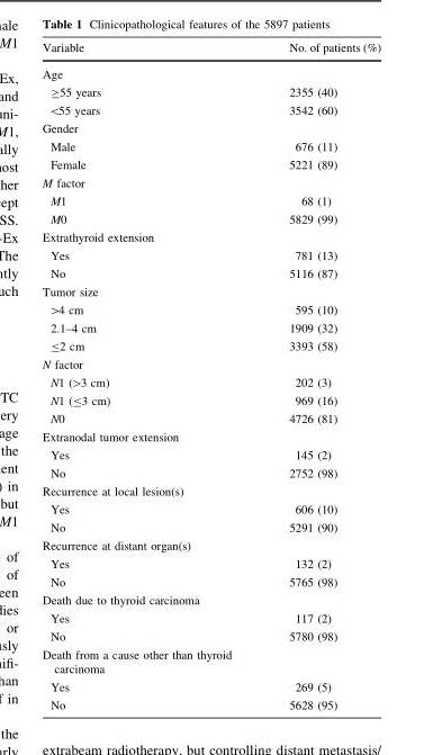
<table><thead><tr><td>Variable</td><td>No. of patients (%)</td></tr></thead><tbody><tr><td colspan="2">Age</td></tr><tr><td>≥55 years</td><td>2355 (40)</td></tr><tr><td>&lt;55 years</td><td>3542 (60)</td></tr><tr><td colspan="2">Gender</td></tr><tr><td>Male</td><td>676 (11)</td></tr><tr><td>Female</td><td>5221 (89)</td></tr><tr><td colspan="2">M factor</td></tr><tr><td>M1</td><td>68 (1)</td></tr><tr><td>M0</td><td>5829 (99)</td></tr><tr><td colspan="2">Extrathyroid extension</td></tr><tr><td>Yes</td><td>781 (13)</td></tr><tr><td>No</td><td>5116 (87)</td></tr><tr><td colspan="2">Tumor size</td></tr><tr><td>&gt;4 cm</td><td>595 (10)</td></tr><tr><td>2.1–4 cm</td><td>1909 (32)</td></tr><tr><td>≤2 cm</td><td>3393 (58)</td></tr><tr><td colspan="2">N factor</td></tr><tr><td>N1 (&gt;3 cm)</td><td>202 (3)</td></tr><tr><td>N1 (≤3 cm)</td><td>969 (16)</td></tr><tr><td>N0</td><td>4726 (81)</td></tr><tr><td colspan="2">Extranodal tumor extension</td></tr><tr><td>Yes</td><td>145 (2)</td></tr><tr><td>No</td><td>2752 (98)</td></tr><tr><td colspan="2">Recurrence at local lesion(s)</td></tr><tr><td>Yes</td><td>606 (10)</td></tr><tr><td>No</td><td>5291 (90)</td></tr><tr><td colspan="2">Recurrence at distant organ(s)</td></tr><tr><td>Yes</td><td>132 (2)</td></tr><tr><td>No</td><td>5765 (98)</td></tr><tr><td colspan="2">Death due to thyroid carcinoma</td></tr><tr><td>Yes</td><td>117 (2)</td></tr><tr><td>No</td><td>5780 (98)</td></tr><tr><td colspan="2">Death from a cause other than thyroid carcinoma</td></tr><tr><td>Yes</td><td>269 (5)</td></tr><tr><td>No</td><td>5628 (95)</td></tr></tbody></table>